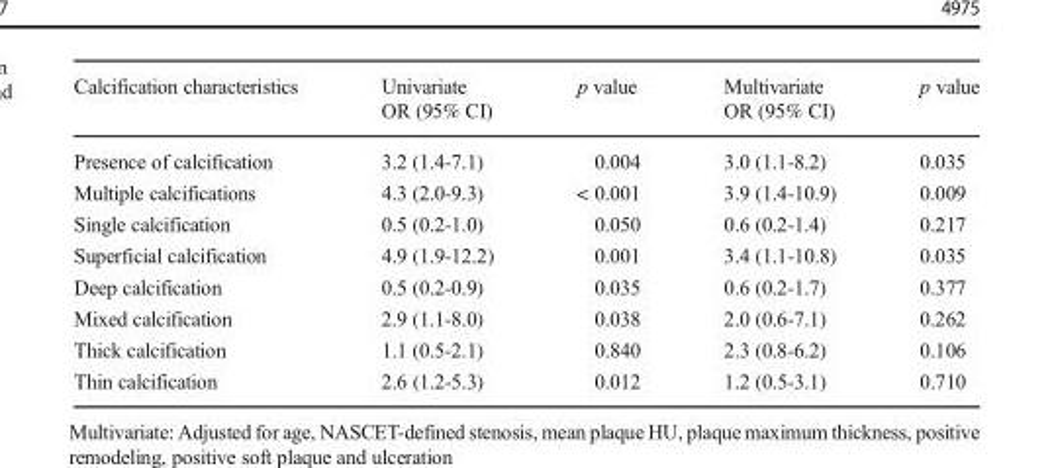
<table><thead><tr><td rowspan="2">Calcification characteristics</td><td rowspan="2">Univariate OR (95% CI)</td><td rowspan="2">p value</td><td rowspan="2">Multivariate OR (95% CI)</td><td rowspan="2">p value</td></tr><tr></tr></thead><tbody><tr><td>Presence of calcification</td><td>3.2 (1.4-7.1)</td><td>0.004</td><td>3.0 (1.1-8.2)</td><td>0.035</td></tr><tr><td>Multiple calcifications</td><td>4.3 (2.0-9.3)</td><td>&lt; 0.001</td><td>3.9 (1.4-10.9)</td><td>0.009</td></tr><tr><td>Single calcification</td><td>0.5 (0.2-1.0)</td><td>0.050</td><td>0.6 (0.2-1.4)</td><td>0.217</td></tr><tr><td>Superficial calcification</td><td>4.9 (1.9-12.2)</td><td>0.001</td><td>3.4 (1.1-10.8)</td><td>0.035</td></tr><tr><td>Deep calcification</td><td>0.5 (0.2-0.9)</td><td>0.035</td><td>0.6 (0.2-1.7)</td><td>0.377</td></tr><tr><td>Mixed calcification</td><td>2.9 (1.1-8.0)</td><td>0.038</td><td>2.0 (0.6-7.1)</td><td>0.262</td></tr><tr><td>Thick calcification</td><td>1.1 (0.5-2.1)</td><td>0.840</td><td>2.3 (0.8-6.2)</td><td>0.106</td></tr><tr><td>Thin calcification</td><td>2.6 (1.2-5.3)</td><td>0.012</td><td>1.2 (0.5-3.1)</td><td>0.710</td></tr></tbody></table>